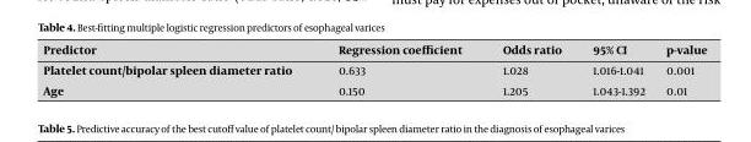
<table><thead><tr><td>Predictor</td><td>Regression coefficient</td><td>Odds ratio</td><td>95% CI</td><td>p-value</td></tr></thead><tbody><tr><td>Platelet count/bipolar spleen diameter ratio</td><td>0.633</td><td>1.028</td><td>1.016-1.041</td><td>0.001</td></tr><tr><td>Age</td><td>0.150</td><td>1.205</td><td>1.043-1.392</td><td>0.01</td></tr></tbody></table>